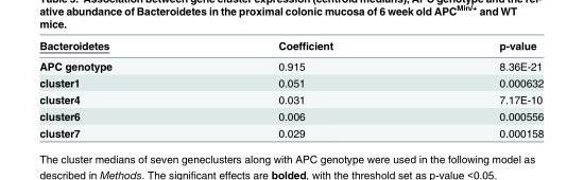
<table><thead><tr><td>Bacteroidetes</td><td>Coefficient</td><td>p-value</td></tr></thead><tbody><tr><td>APC genotype</td><td>0.915</td><td>8.36E-21</td></tr><tr><td>cluster1</td><td>0.051</td><td>0.000632</td></tr><tr><td>cluster4</td><td>0.031</td><td>7.17E-10</td></tr><tr><td>cluster6</td><td>0.006</td><td>0.000556</td></tr><tr><td>cluster7</td><td>0.029</td><td>0.000158</td></tr></tbody></table>